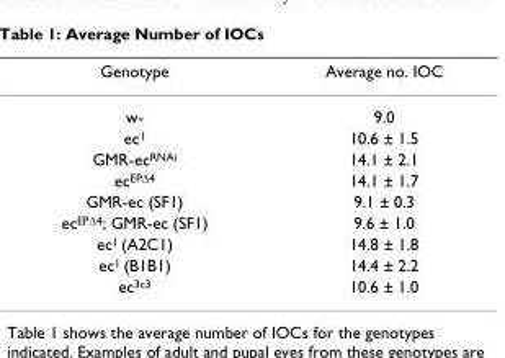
<table><thead><tr><td>Genotype</td><td>Average no. IOC</td></tr></thead><tbody><tr><td>w-</td><td>9.0</td></tr><tr><td>ec<sup>1</sup></td><td>10.6 ± 1.5</td></tr><tr><td>GMR-ec<sup>RNAi</sup></td><td>14.1 ± 2.1</td></tr><tr><td>ecEP∆4</td><td>14.1 ± 1.7</td></tr><tr><td>GMR-ec (SF1)</td><td>9.1 ± 0.3</td></tr><tr><td>ecEP∆4; GMR-ec (SF1)</td><td>9.6 ± 1.0</td></tr><tr><td>ec<sup>1</sup> (A2C1)</td><td>14.8 ± 1.8</td></tr><tr><td>ec<sup>1</sup> (B1B1)</td><td>14.4 ± 2.2</td></tr><tr><td>ec<sup>3c3</sup></td><td>10.6 ± 1.0</td></tr></tbody></table>